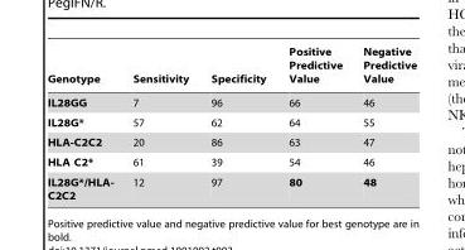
<table><thead><tr><td>Genotype</td><td>Sensitivity</td><td>Specificity</td><td>Positive Predictive Value</td><td>Negative Predictive Value</td></tr></thead><tbody><tr><td>IL28GG</td><td>7</td><td>96</td><td>66</td><td>46</td></tr><tr><td>IL28G*</td><td>57</td><td>62</td><td>64</td><td>55</td></tr><tr><td>HLA-C2C2</td><td>20</td><td>86</td><td>63</td><td>47</td></tr><tr><td>HLA C2*</td><td>61</td><td>39</td><td>54</td><td>46</td></tr><tr><td>IL28G*/HLA- C2C2</td><td>12</td><td>97</td><td>80</td><td>48</td></tr></tbody></table>